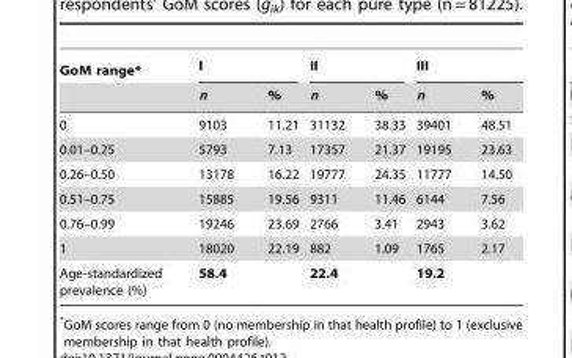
<table><thead><tr><td rowspan="2">GoM range*</td><td colspan="2">I</td><td colspan="2">II</td><td colspan="2">III</td></tr><tr><td>n</td><td>%</td><td>n</td><td>%</td><td>n</td><td>%</td></tr></thead><tbody><tr><td>0</td><td>9103</td><td>11.21</td><td>31132</td><td>38.33</td><td>39401</td><td>48.51</td></tr><tr><td>0.01–0.25</td><td>5793</td><td>7.13</td><td>17357</td><td>21.37</td><td>19195</td><td>23.63</td></tr><tr><td>0.26–0.50</td><td>13178</td><td>16.22</td><td>19777</td><td>24.35</td><td>11777</td><td>14.50</td></tr><tr><td>0.51–0.75</td><td>15885</td><td>19.56</td><td>9311</td><td>11.46</td><td>6144</td><td>7.56</td></tr><tr><td>0.76–0.99</td><td>19246</td><td>23.69</td><td>2766</td><td>3.41</td><td>2943</td><td>3.62</td></tr><tr><td>1</td><td>18020</td><td>22.19</td><td>882</td><td>1.09</td><td>1765</td><td>2.17</td></tr><tr><td>Age-standardized prevalence (%)</td><td colspan="2">58.4</td><td colspan="2">22.4</td><td colspan="2">19.2</td></tr></tbody></table>